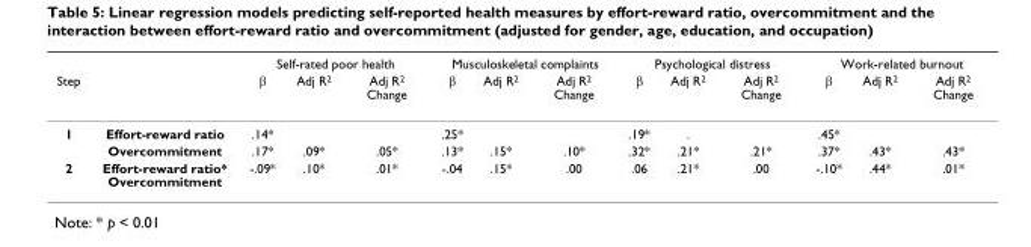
<table><thead><tr><td rowspan="2">Step</td><td rowspan="2"></td><td colspan="3">Self-rated poor health</td><td colspan="3">Musculoskeletal complaints</td><td colspan="3">Psychological distress</td><td colspan="3">Work-related burnout</td></tr><tr><td>β</td><td>Adj R<sup>2</sup></td><td>Adj R<sup>2</sup> Change</td><td>β</td><td>Adj R<sup>2</sup></td><td>Adj R<sup>2</sup> Change</td><td>β</td><td>Adj R<sup>2</sup></td><td>Adj R<sup>2</sup> Change</td><td>β</td><td>Adj R<sup>2</sup></td><td>Adj R<sup>2</sup> Change</td></tr></thead><tbody><tr><td rowspan="2">1</td><td>Effort-reward ratio</td><td>.14*</td><td></td><td></td><td>.25*</td><td></td><td></td><td>.19*</td><td>.</td><td></td><td>.45*</td><td></td><td></td></tr><tr><td>Overcommitment</td><td>.17*</td><td>.09*</td><td>.05*</td><td>.13*</td><td>.15*</td><td>.10*</td><td>.32*</td><td>.21*</td><td>.21*</td><td>.37*</td><td>.43*</td><td>.43*</td></tr><tr><td>2</td><td>Effort-reward ratio* Overcommitment</td><td>-.09*</td><td>.10*</td><td>.01*</td><td>-.04</td><td>.15*</td><td>.00</td><td>.06</td><td>.21*</td><td>.00</td><td>-.10*</td><td>.44*</td><td>.01*</td></tr></tbody></table>